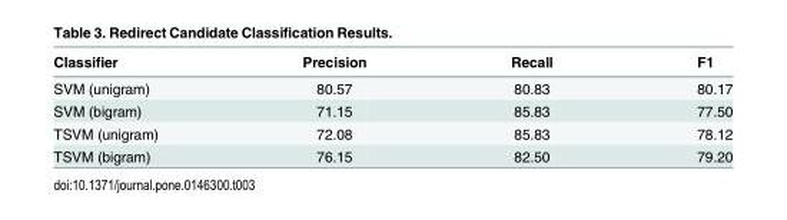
<table><thead><tr><td>Classifier</td><td>Precision</td><td>Recall</td><td>F1</td></tr></thead><tbody><tr><td>SVM (unigram)</td><td>80.57</td><td>80.83</td><td>80.17</td></tr><tr><td>SVM (bigram)</td><td>71.15</td><td>85.83</td><td>77.50</td></tr><tr><td>TSVM (unigram)</td><td>72.08</td><td>85.83</td><td>78.12</td></tr><tr><td>TSVM (bigram)</td><td>76.15</td><td>82.50</td><td>79.20</td></tr></tbody></table>